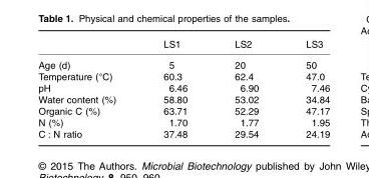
<table><thead><tr><td></td><td>LS1</td><td>LS2</td><td>LS3</td></tr></thead><tbody><tr><td>Age (d)</td><td>5</td><td>20</td><td>50</td></tr><tr><td>Temperature (°C)</td><td>60.3</td><td>62.4</td><td>47.0</td></tr><tr><td>pH</td><td>6.46</td><td>6.90</td><td>7.46</td></tr><tr><td>Water content (%)</td><td>58.80</td><td>53.02</td><td>34.84</td></tr><tr><td>Organic C (%)</td><td>63.71</td><td>52.29</td><td>47.17</td></tr><tr><td>N (%)</td><td>1.70</td><td>1.77</td><td>1.95</td></tr><tr><td>C : N ratio</td><td>37.48</td><td>29.54</td><td>24.19</td></tr></tbody></table>